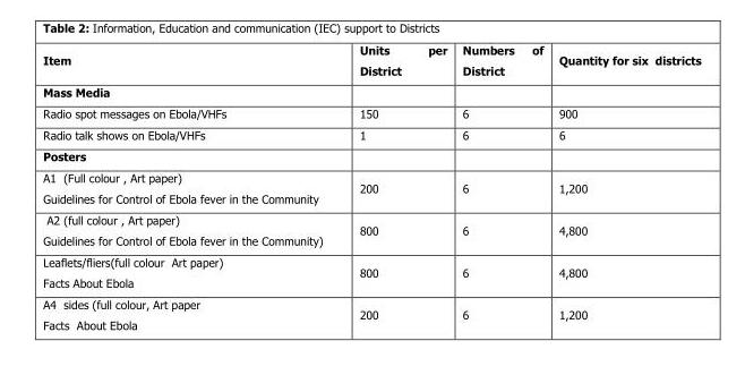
<table><thead><tr><td>Item</td><td>Units per District</td><td>Numbers of District</td><td>Quantity for six districts</td></tr></thead><tbody><tr><td colspan="4">Mass Media</td></tr><tr><td>Radio spot messages on Ebola/VHFs</td><td>150</td><td>6</td><td>900</td></tr><tr><td>Radio talk shows on Ebola/VHFs</td><td>1</td><td>6</td><td>6</td></tr><tr><td colspan="4">Posters</td></tr><tr><td>A1 (Full colour , Art paper) Guidelines for Control of Ebola fever in the Community</td><td>200</td><td>6</td><td>1,200</td></tr><tr><td>A2 (full colour , Art paper) Guidelines for Control of Ebola fever in the Community)</td><td>800</td><td>6</td><td>4,800</td></tr><tr><td>Leaflets/fliers(full colour Art paper) Facts About Ebola</td><td>800</td><td>6</td><td>4,800</td></tr><tr><td>A4 sides (full colour, Art paper Facts About Ebola</td><td>200</td><td>6</td><td>1,200</td></tr></tbody></table>